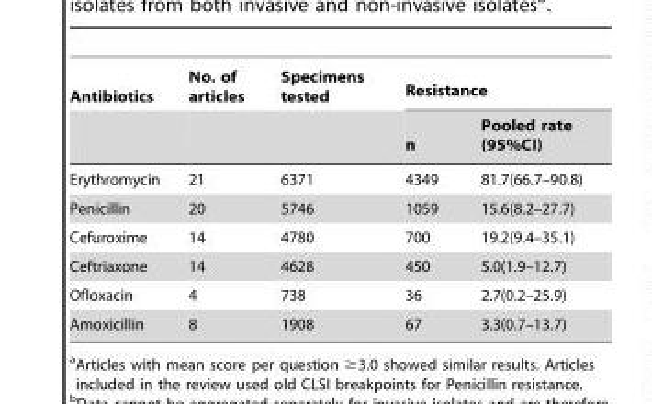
<table><thead><tr><td rowspan="2">Antibiotics</td><td rowspan="2">No. of articles</td><td rowspan="2">Specimens tested</td><td colspan="2">Resistance</td></tr><tr><td>n</td><td>Pooled rate (95%CI)</td></tr></thead><tbody><tr><td>Erythromycin</td><td>21</td><td>6371</td><td>4349</td><td>81.7(66.7–90.8)</td></tr><tr><td>Penicillin</td><td>20</td><td>5746</td><td>1059</td><td>15.6(8.2–27.7)</td></tr><tr><td>Cefuroxime</td><td>14</td><td>4780</td><td>700</td><td>19.2(9.4–35.1)</td></tr><tr><td>Ceftriaxone</td><td>14</td><td>4628</td><td>450</td><td>5.0(1.9–12.7)</td></tr><tr><td>Ofloxacin</td><td>4</td><td>738</td><td>36</td><td>2.7(0.2–25.9)</td></tr><tr><td>Amoxicillin</td><td>8</td><td>1908</td><td>67</td><td>3.3(0.7–13.7)</td></tr></tbody></table>